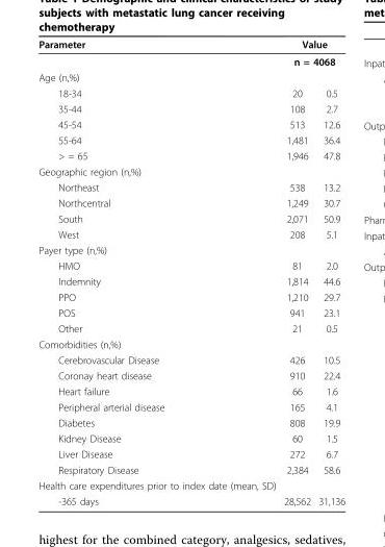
<table><thead><tr><td rowspan="3">Parameter Age (n,%)</td><td rowspan="2" colspan="2">Value n = 4068</td></tr><tr></tr><tr><td></td><td></td></tr></thead><tbody><tr><td>18-34</td><td>20</td><td>0.5</td></tr><tr><td>35-44</td><td>108</td><td>2.7</td></tr><tr><td>45-54</td><td>513</td><td>12.6</td></tr><tr><td>55-64</td><td>1,481</td><td>36.4</td></tr><tr><td>&gt; = 65</td><td>1,946</td><td>47.8</td></tr><tr><td colspan="3">Geographic region (n,%)</td></tr><tr><td>Northeast</td><td>538</td><td>13.2</td></tr><tr><td>Northcentral</td><td>1,249</td><td>30.7</td></tr><tr><td>South</td><td>2,071</td><td>50.9</td></tr><tr><td>West</td><td>208</td><td>5.1</td></tr><tr><td colspan="3">Payer type (n,%)</td></tr><tr><td>HMO</td><td>81</td><td>2.0</td></tr><tr><td>Indemnity</td><td>1,814</td><td>44.6</td></tr><tr><td>PPO</td><td>1,210</td><td>29.7</td></tr><tr><td>POS</td><td>941</td><td>23.1</td></tr><tr><td>Other</td><td>21</td><td>0.5</td></tr><tr><td colspan="3">Comorbidities (n,%)</td></tr><tr><td>Cerebrovascular Disease</td><td>426</td><td>10.5</td></tr><tr><td>Coronay heart disease</td><td>910</td><td>22.4</td></tr><tr><td>Heart failure</td><td>66</td><td>1.6</td></tr><tr><td>Peripheral arterial disease</td><td>165</td><td>4.1</td></tr><tr><td>Diabetes</td><td>808</td><td>19.9</td></tr><tr><td>Kidney Disease</td><td>60</td><td>1.5</td></tr><tr><td>Liver Disease</td><td>272</td><td>6.7</td></tr><tr><td>Respiratory Disease</td><td>2,384</td><td>58.6</td></tr><tr><td colspan="3">Health care expenditures prior to index date (mean, SD)</td></tr><tr><td>-365 days</td><td>28,562</td><td>31,136</td></tr></tbody></table>